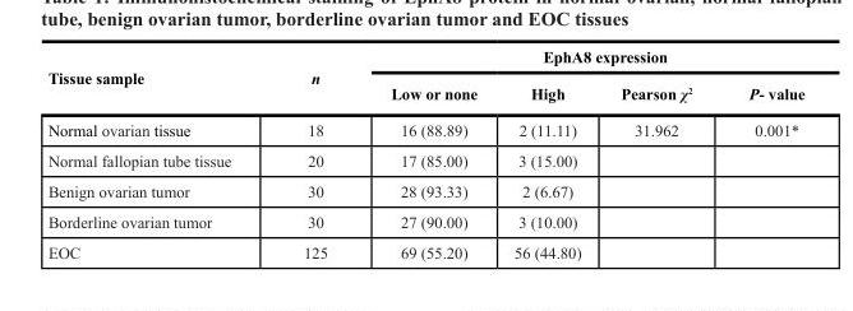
<table><thead><tr><td rowspan="2">Tissue sample</td><td rowspan="2">n</td><td colspan="4">EphA8 expression</td></tr><tr><td>Low or none</td><td>High</td><td>Pearson χ2</td><td>P- value</td></tr></thead><tbody><tr><td>Normal ovarian tissue</td><td>18</td><td>16 (88.89)</td><td>2 (11.11)</td><td>31.962</td><td>0.001*</td></tr><tr><td>Normal fallopian tube tissue</td><td>20</td><td>17 (85.00)</td><td>3 (15.00)</td><td></td><td></td></tr><tr><td>Benign ovarian tumor</td><td>30</td><td>28 (93.33)</td><td>2 (6.67)</td><td></td><td></td></tr><tr><td>Borderline ovarian tumor</td><td>30</td><td>27 (90.00)</td><td>3 (10.00)</td><td></td><td></td></tr><tr><td>EOC</td><td>125</td><td>69 (55.20)</td><td>56 (44.80)</td><td></td><td></td></tr></tbody></table>